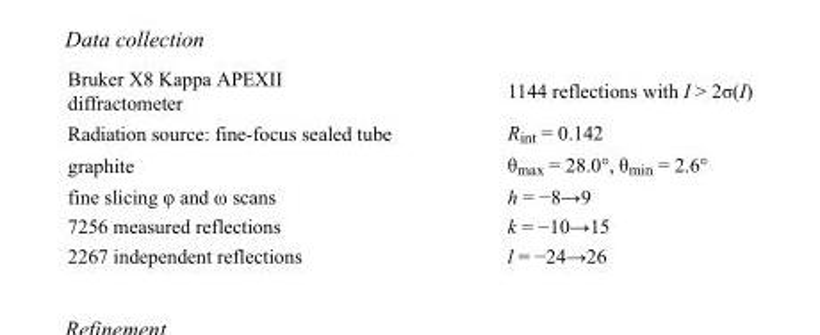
<table><tbody><tr><td>Bruker X8 Kappa APEXII diffractometer</td><td>1144 reflections with I &gt; 2σ(I)</td></tr><tr><td>Radiation source: fine-focus sealed tube</td><td>R<sub>int</sub> = 0.142</td></tr><tr><td>graphite</td><td>θ<sub>max</sub> = 28.0°, θ<sub>min</sub> = 2.6°</td></tr><tr><td>fine slicing φ and ω scans</td><td>h = −8→9</td></tr><tr><td>7256 measured reflections</td><td>k = −10→15</td></tr><tr><td>2267 independent reflections</td><td>l = −24→26</td></tr></tbody></table>